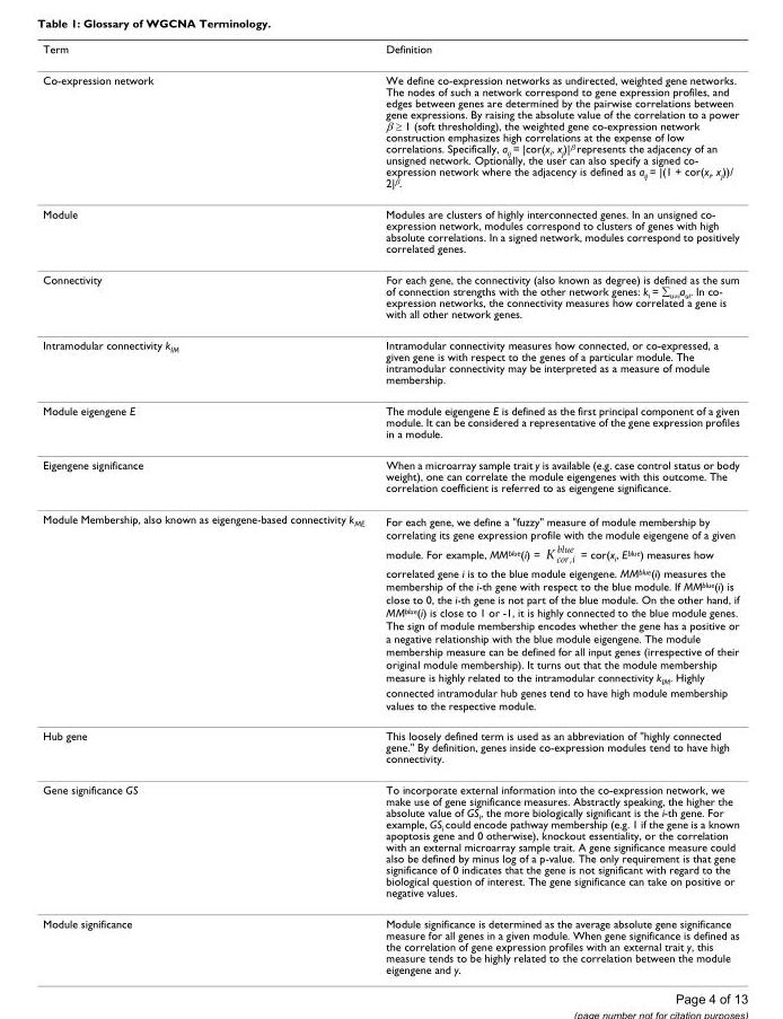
<table><thead><tr><td>Term</td><td>Definition</td></tr></thead><tbody><tr><td>Co-expression network</td><td>We define co-expression networks as undirected, weighted gene networks. The nodes of such a network correspond to gene expression profiles, and edges between genes are determined by the pairwise correlations between gene expressions. By raising the absolute value of the correlation to a power β ≥ 1 (soft thresholding), the weighted gene co-expression network construction emphasizes high correlations at the expense of low correlations. Specifically, a<sub>ij</sub> = |cor(x<sub>i</sub>, x<sub>j</sub>)|<sup>β</sup> represents the adjacency of an unsigned network. Optionally, the user can also specify a signed co- expression network where the adjacency is defined as a<sub>ij</sub> = |(1 + cor(x<sub>i</sub>, x<sub>j</sub>))/ 2|<sup>β</sup>.</td></tr><tr><td>Module</td><td>Modules are clusters of highly interconnected genes. In an unsigned co- expression network, modules correspond to clusters of genes with high absolute correlations. In a signed network, modules correspond to positively correlated genes.</td></tr><tr><td>Connectivity</td><td>For each gene, the connectivity (also known as degree) is defined as the sum of connection strengths with the other network genes: k<sub>i</sub> = ∑<sub>u≠i</sub>a<sub>ui</sub>. In co- expression networks, the connectivity measures how correlated a gene is with all other network genes.</td></tr><tr><td>Intramodular connectivity k<sub>IM</sub></td><td>Intramodular connectivity measures how connected, or co-expressed, a given gene is with respect to the genes of a particular module. The intramodular connectivity may be interpreted as a measure of module membership.</td></tr><tr><td>Module eigengene E</td><td>The module eigengene E is defined as the first principal component of a given module. It can be considered a representative of the gene expression profiles in a module.</td></tr><tr><td>Eigengene significance</td><td>When a microarray sample trait y is available (e.g. case control status or body weight), one can correlate the module eigengenes with this outcome. The correlation coefficient is referred to as eigengene significance.</td></tr><tr><td>Module Membership, also known as eigengene-based connectivity kME</td><td>For each gene, we define a &quot;fuzzy&quot; measure of module membership by correlating its gene expression profile with the module eigengene of a given module. For example, MMblue(i) = = cor(xi, Eblue) measures how correlated gene i is to the blue module eigengene. MMblue(i) measures the membership of the i-th gene with respect to the blue module. If MMblue(i) is close to 0, the i-th gene is not part of the blue module. On the other hand, if MMblue(i) is close to 1 or -1, it is highly connected to the blue module genes. The sign of module membership encodes whether the gene has a positive or a negative relationship with the blue module eigengene. The module membership measure can be defined for all input genes (irrespective of their original module membership). It turns out that the module membership measure is highly related to the intramodular connectivity kIM. Highly connected intramodular hub genes tend to have high module membership values to the respective module. K cor i blue ,</td></tr><tr><td>Hub gene</td><td>This loosely defined term is used as an abbreviation of &quot;highly connected gene.&quot; By definition, genes inside co-expression modules tend to have high connectivity.</td></tr><tr><td>Gene significance GS</td><td>To incorporate external information into the co-expression network, we make use of gene significance measures. Abstractly speaking, the higher the absolute value of GSi, the more biologically significant is the i-th gene. For example, GSi could encode pathway membership (e.g. 1 if the gene is a known apoptosis gene and 0 otherwise), knockout essentiality, or the correlation with an external microarray sample trait. A gene significance measure could also be defined by minus log of a p-value. The only requirement is that gene significance of 0 indicates that the gene is not significant with regard to the biological question of interest. The gene significance can take on positive or negative values.</td></tr><tr><td>Module significance</td><td>Module significance is determined as the average absolute gene significance measure for all genes in a given module. When gene significance is defined as the correlation of gene expression profiles with an external trait y, this measure tends to be highly related to the correlation between the module eigengene and y.</td></tr></tbody></table>